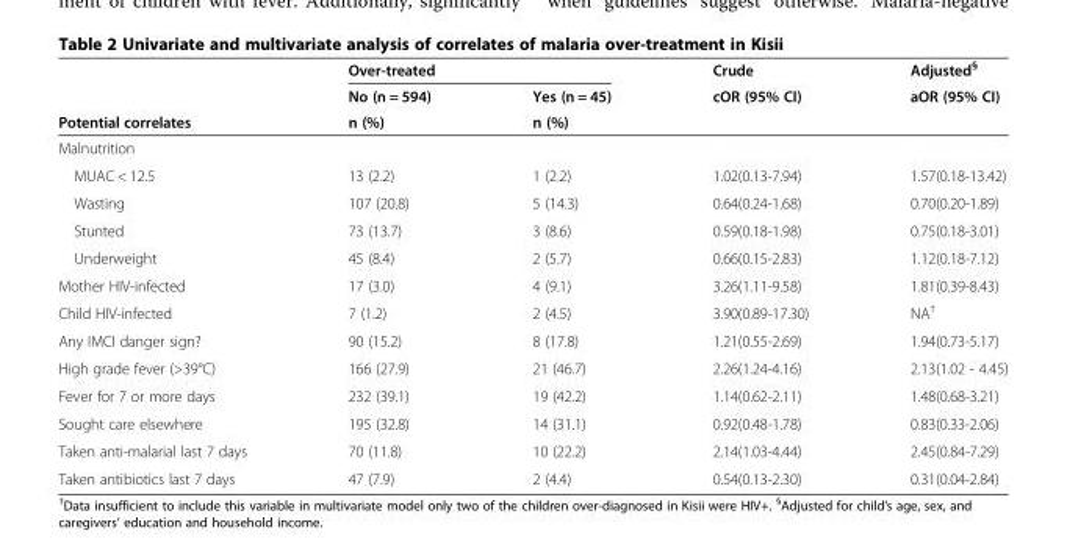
<table><thead><tr><td rowspan="3">Potential correlates</td><td colspan="2">Over-treated</td><td rowspan="3">Crude cOR (95% CI)</td><td rowspan="3">Adjusted<sup>§</sup> aOR (95% CI)</td></tr><tr><td rowspan="2">No (n = 594) n (%)</td><td rowspan="2">Yes (n = 45) n (%)</td></tr><tr></tr></thead><tbody><tr><td colspan="5">Malnutrition</td></tr><tr><td>MUAC &lt; 12.5</td><td>13 (2.2)</td><td>1 (2.2)</td><td>1.02(0.13-7.94)</td><td>1.57(0.18-13.42)</td></tr><tr><td>Wasting</td><td>107 (20.8)</td><td>5 (14.3)</td><td>0.64(0.24-1.68)</td><td>0.70(0.20-1.89)</td></tr><tr><td>Stunted</td><td>73 (13.7)</td><td>3 (8.6)</td><td>0.59(0.18-1.98)</td><td>0.75(0.18-3.01)</td></tr><tr><td>Underweight</td><td>45 (8.4)</td><td>2 (5.7)</td><td>0.66(0.15-2.83)</td><td>1.12(0.18-7.12)</td></tr><tr><td>Mother HIV-infected</td><td>17 (3.0)</td><td>4 (9.1)</td><td>3.26(1.11-9.58)</td><td>1.81(0.39-8.43)</td></tr><tr><td>Child HIV-infected</td><td>7 (1.2)</td><td>2 (4.5)</td><td>3.90(0.89-17.30)</td><td>NA<sup>†</sup></td></tr><tr><td>Any IMCI danger sign?</td><td>90 (15.2)</td><td>8 (17.8)</td><td>1.21(0.55-2.69)</td><td>1.94(0.73-5.17)</td></tr><tr><td>High grade fever (&gt;39°C)</td><td>166 (27.9)</td><td>21 (46.7)</td><td>2.26(1.24-4.16)</td><td>2.13(1.02 - 4.45)</td></tr><tr><td>Fever for 7 or more days</td><td>232 (39.1)</td><td>19 (42.2)</td><td>1.14(0.62-2.11)</td><td>1.48(0.68-3.21)</td></tr><tr><td>Sought care elsewhere</td><td>195 (32.8)</td><td>14 (31.1)</td><td>0.92(0.48-1.78)</td><td>0.83(0.33-2.06)</td></tr><tr><td>Taken anti-malarial last 7 days</td><td>70 (11.8)</td><td>10 (22.2)</td><td>2.14(1.03-4.44)</td><td>2.45(0.84-7.29)</td></tr><tr><td>Taken antibiotics last 7 days</td><td>47 (7.9)</td><td>2 (4.4)</td><td>0.54(0.13-2.30)</td><td>0.31(0.04-2.84)</td></tr></tbody></table>